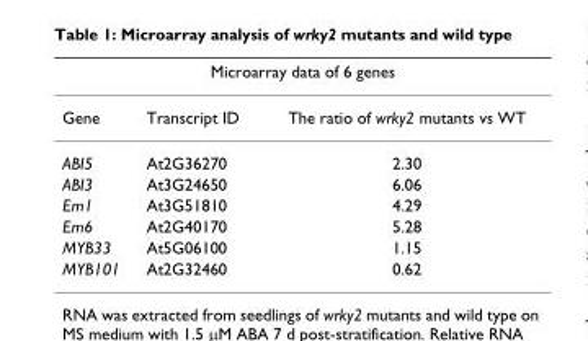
<table><thead><tr><td colspan="3">Microarray data of 6 genes</td></tr><tr><td>Gene</td><td>Transcript ID</td><td>The ratio of wrky2 mutants vs WT</td></tr></thead><tbody><tr><td>ABI5</td><td>At2G36270</td><td>2.30</td></tr><tr><td>ABI3</td><td>At3G24650</td><td>6.06</td></tr><tr><td>Em1</td><td>At3G51810</td><td>4.29</td></tr><tr><td>Em6</td><td>At2G40170</td><td>5.28</td></tr><tr><td>MYB33</td><td>At5G06100</td><td>1.15</td></tr><tr><td>MYB101</td><td>At2G32460</td><td>0.62</td></tr></tbody></table>